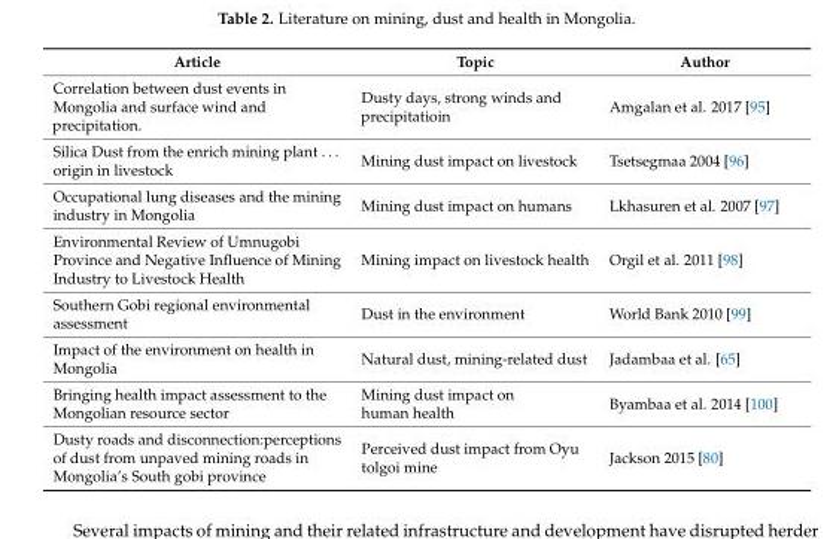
<table><thead><tr><td>Article</td><td>Topic</td><td>Author</td></tr></thead><tbody><tr><td>Correlation between dust events in Mongolia and surface wind and precipitation.</td><td>Dusty days, strong winds and precipitatioin</td><td>Amgalan et al. 2017 [95]</td></tr><tr><td>Silica Dust from the enrich mining plant . . . origin in livestock</td><td>Mining dust impact on livestock</td><td>Tsetsegmaa 2004 [96]</td></tr><tr><td>Occupational lung diseases and the mining industry in Mongolia</td><td>Mining dust impact on humans</td><td>Lkhasuren et al. 2007 [97]</td></tr><tr><td>Environmental Review of Umnugobi Province and Negative Influence of Mining Industry to Livestock Health</td><td>Mining impact on livestock health</td><td>Orgil et al. 2011 [98]</td></tr><tr><td>Southern Gobi regional environmental assessment</td><td>Dust in the environment</td><td>World Bank 2010 [99]</td></tr><tr><td>Impact of the environment on health in Mongolia</td><td>Natural dust, mining-related dust</td><td>Jadambaa et al. [65]</td></tr><tr><td>Bringing health impact assessment to the Mongolian resource sector</td><td>Mining dust impact on human health</td><td>Byambaa et al. 2014 [100]</td></tr><tr><td>Dusty roads and disconnection:perceptions of dust from unpaved mining roads in Mongolia’s South gobi province</td><td>Perceived dust impact from Oyu tolgoi mine</td><td>Jackson 2015 [80]</td></tr></tbody></table>